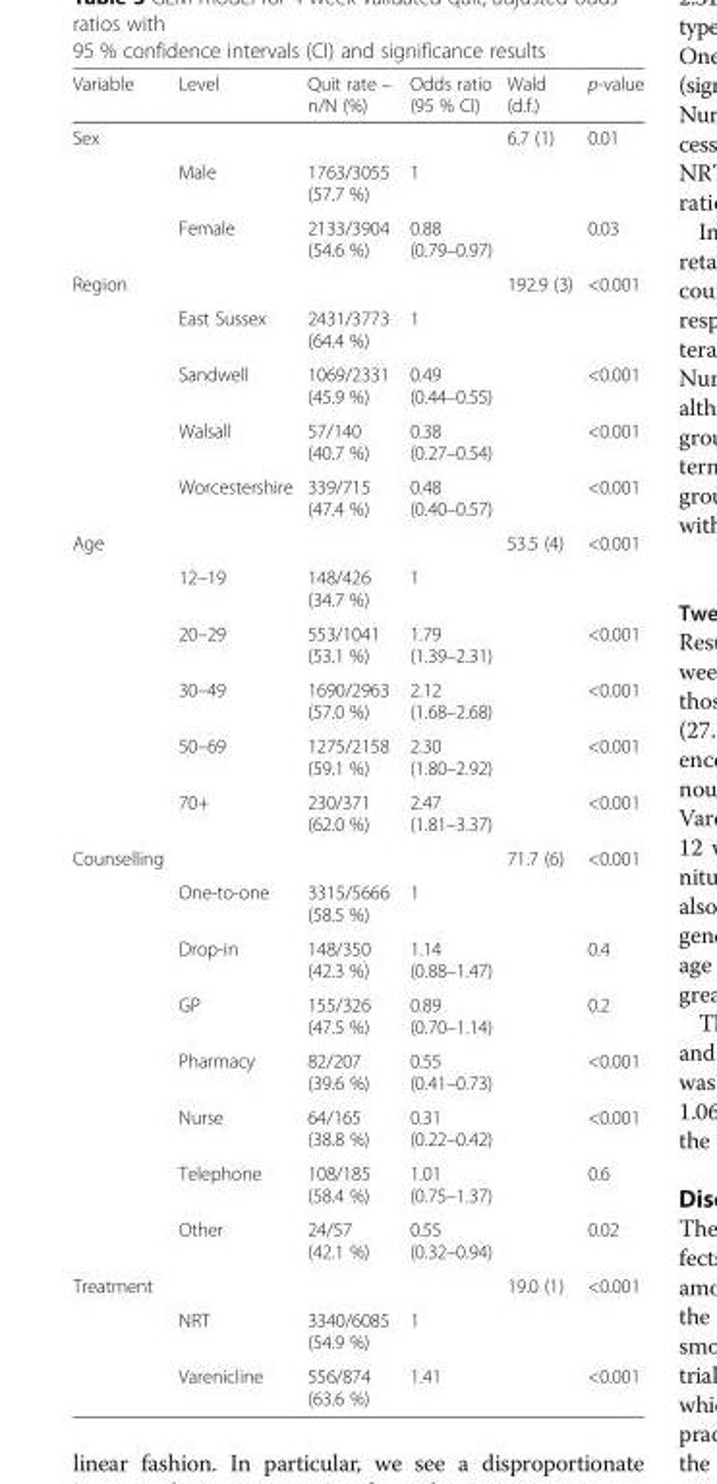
<table><thead><tr><td>Variable</td><td>Level</td><td>Quit rate – n/N (%)</td><td>Odds ratio (95 % CI)</td><td>Wald (d.f.)</td><td>p-value</td></tr></thead><tbody><tr><td rowspan="3">Sex</td><td></td><td></td><td></td><td>6.7 (1)</td><td>0.01</td></tr><tr><td>Male</td><td>1763/3055 (57.7 %)</td><td>1</td><td></td><td></td></tr><tr><td>Female</td><td>2133/3904 (54.6 %)</td><td>0.88 (0.79–0.97)</td><td></td><td>0.03</td></tr><tr><td rowspan="5">Region</td><td></td><td></td><td></td><td>192.9 (3)</td><td>&lt;0.001</td></tr><tr><td>East Sussex</td><td>2431/3773 (64.4 %)</td><td>1</td><td></td><td></td></tr><tr><td>Sandwell</td><td>1069/2331 (45.9 %)</td><td>0.49 (0.44–0.55)</td><td></td><td>&lt;0.001</td></tr><tr><td>Walsall</td><td>57/140 (40.7 %)</td><td>0.38 (0.27–0.54)</td><td></td><td>&lt;0.001</td></tr><tr><td>Worcestershire</td><td>339/715 (47.4 %)</td><td>0.48 (0.40–0.57)</td><td></td><td>&lt;0.001</td></tr><tr><td rowspan="6">Age</td><td></td><td></td><td></td><td>53.5 (4)</td><td>&lt;0.001</td></tr><tr><td>12–19</td><td>148/426 (34.7 %)</td><td>1</td><td></td><td></td></tr><tr><td>20–29</td><td>553/1041 (53.1 %)</td><td>1.79 (1.39–2.31)</td><td></td><td>&lt;0.001</td></tr><tr><td>30–49</td><td>1690/2963 (57.0 %)</td><td>2.12 (1.68–2.68)</td><td></td><td>&lt;0.001</td></tr><tr><td>50–69</td><td>1275/2158 (59.1 %)</td><td>2.30 (1.80–2.92)</td><td></td><td>&lt;0.001</td></tr><tr><td>70+</td><td>230/371 (62.0 %)</td><td>2.47 (1.81–3.37)</td><td></td><td>&lt;0.001</td></tr><tr><td rowspan="8">Counselling</td><td></td><td></td><td></td><td>71.7 (6)</td><td>&lt;0.001</td></tr><tr><td>One-to-one</td><td>3315/5666 (58.5 %)</td><td>1</td><td></td><td></td></tr><tr><td>Drop-in</td><td>148/350 (42.3 %)</td><td>1.14 (0.88–1.47)</td><td></td><td>0.4</td></tr><tr><td>GP</td><td>155/326 (47.5 %)</td><td>0.89 (0.70–1.14)</td><td></td><td>0.2</td></tr><tr><td>Pharmacy</td><td>82/207 (39.6 %)</td><td>0.55 (0.41–0.73)</td><td></td><td>&lt;0.001</td></tr><tr><td>Nurse</td><td>64/165 (38.8 %)</td><td>0.31 (0.22–0.42)</td><td></td><td>&lt;0.001</td></tr><tr><td>Telephone</td><td>108/185 (58.4 %)</td><td>1.01 (0.75–1.37)</td><td></td><td>0.6</td></tr><tr><td>Other</td><td>24/57 (42.1 %)</td><td>0.55 (0.32–0.94)</td><td></td><td>0.02</td></tr><tr><td rowspan="3">Treatment</td><td></td><td></td><td></td><td>19.0 (1)</td><td>&lt;0.001</td></tr><tr><td>NRT</td><td>3340/6085 (54.9 %)</td><td>1</td><td></td><td></td></tr><tr><td>Varenicline</td><td>556/874 (63.6 %)</td><td>1.41</td><td></td><td>&lt;0.001</td></tr></tbody></table>